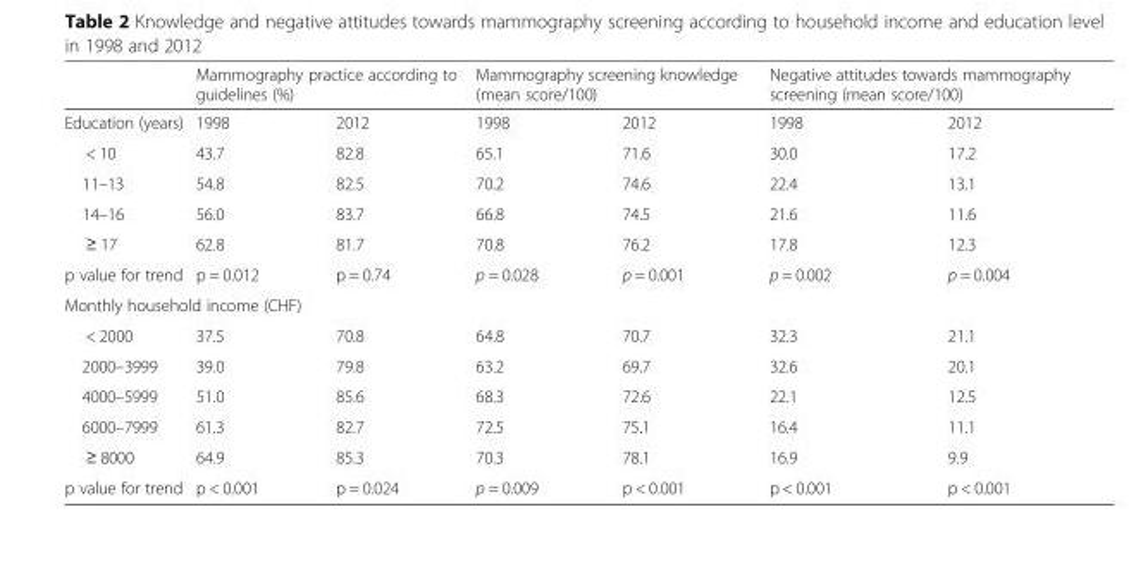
<table><thead><tr><td rowspan="2">Education (years)</td><td colspan="2">Mammography practice according to guidelines (%)</td><td colspan="2">Mammography screening knowledge (mean score/100)</td><td colspan="2">Negative attitudes towards mammography screening (mean score/100)</td></tr><tr><td>1998</td><td>2012</td><td>1998</td><td>2012</td><td>1998</td><td>2012</td></tr></thead><tbody><tr><td>&lt; 10</td><td>43.7</td><td>82.8</td><td>65.1</td><td>71.6</td><td>30.0</td><td>17.2</td></tr><tr><td>11–13</td><td>54.8</td><td>82.5</td><td>70.2</td><td>74.6</td><td>22.4</td><td>13.1</td></tr><tr><td>14–16</td><td>56.0</td><td>83.7</td><td>66.8</td><td>74.5</td><td>21.6</td><td>11.6</td></tr><tr><td>≥ 17</td><td>62.8</td><td>81.7</td><td>70.8</td><td>76.2</td><td>17.8</td><td>12.3</td></tr><tr><td>p value for trend</td><td>p = 0.012</td><td>p = 0.74</td><td>p = 0.028</td><td>p = 0.001</td><td>p = 0.002</td><td>p = 0.004</td></tr><tr><td colspan="7">Monthly household income (CHF)</td></tr><tr><td>&lt; 2000</td><td>37.5</td><td>70.8</td><td>64.8</td><td>70.7</td><td>32.3</td><td>21.1</td></tr><tr><td>2000–3999</td><td>39.0</td><td>79.8</td><td>63.2</td><td>69.7</td><td>32.6</td><td>20.1</td></tr><tr><td>4000–5999</td><td>51.0</td><td>85.6</td><td>68.3</td><td>72.6</td><td>22.1</td><td>12.5</td></tr><tr><td>6000–7999</td><td>61.3</td><td>82.7</td><td>72.5</td><td>75.1</td><td>16.4</td><td>11.1</td></tr><tr><td>≥ 8000</td><td>64.9</td><td>85.3</td><td>70.3</td><td>78.1</td><td>16.9</td><td>9.9</td></tr><tr><td>p value for trend</td><td>p &lt; 0.001</td><td>p = 0.024</td><td>p = 0.009</td><td>p &lt; 0.001</td><td>p &lt; 0.001</td><td>p &lt; 0.001</td></tr></tbody></table>